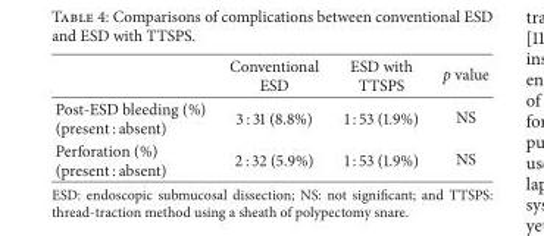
<table><thead><tr><td></td><td>Conventional ESD</td><td>ESD with TTSPS</td><td>p value</td></tr></thead><tbody><tr><td>Post-ESD bleeding (%) (present : absent)</td><td>3 : 31 (8.8%)</td><td>1 : 53 (1.9%)</td><td>NS</td></tr><tr><td>Perforation (%) (present : absent)</td><td>2 : 32 (5.9%)</td><td>1 : 53 (1.9%)</td><td>NS</td></tr></tbody></table>